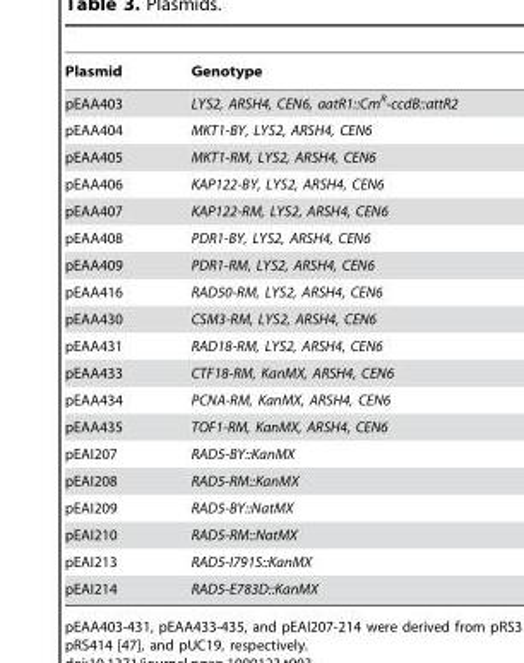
<table><thead><tr><td>Plasmid</td><td>Genotype</td></tr></thead><tbody><tr><td>pEAA403</td><td>LYS2, ARSH4, CEN6, aatR1::Cm<sup>R</sup>-ccdB::attR2</td></tr><tr><td>pEAA404</td><td>MKT1-BY, LYS2, ARSH4, CEN6</td></tr><tr><td>pEAA405</td><td>MKT1-RM, LYS2, ARSH4, CEN6</td></tr><tr><td>pEAA406</td><td>KAP122-BY, LYS2, ARSH4, CEN6</td></tr><tr><td>pEAA407</td><td>KAP122-RM, LYS2, ARSH4, CEN6</td></tr><tr><td>pEAA408</td><td>PDR1-BY, LYS2, ARSH4, CEN6</td></tr><tr><td>pEAA409</td><td>PDR1-RM, LYS2, ARSH4, CEN6</td></tr><tr><td>pEAA416</td><td>RAD50-RM, LYS2, ARSH4, CEN6</td></tr><tr><td>pEAA430</td><td>CSM3-RM, LYS2, ARSH4, CEN6</td></tr><tr><td>pEAA431</td><td>RAD18-RM, LYS2, ARSH4, CEN6</td></tr><tr><td>pEAA433</td><td>CTF18-RM, KanMX, ARSH4, CEN6</td></tr><tr><td>pEAA434</td><td>PCNA-RM, KanMX, ARSH4, CEN6</td></tr><tr><td>pEAA435</td><td>TOF1-RM, KanMX, ARSH4, CEN6</td></tr><tr><td>pEAI207</td><td>RAD5-BY::KanMX</td></tr><tr><td>pEAI208</td><td>RAD5-RM::KanMX</td></tr><tr><td>pEAI209</td><td>RAD5-BY::NatMX</td></tr><tr><td>pEAI210</td><td>RAD5-RM::NatMX</td></tr><tr><td>pEAI213</td><td>RAD5-I791S::KanMX</td></tr><tr><td>pEAI214</td><td>RAD5-E783D::KanMX</td></tr></tbody></table>